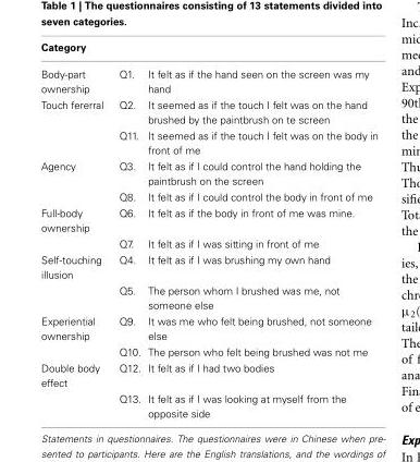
<table><thead><tr><td colspan="3">Category</td></tr><tr><td>Body-part ownership</td><td>Q1.</td><td>It felt as if the hand seen on the screen was my hand</td></tr></thead><tbody><tr><td rowspan="2">Touch fererral</td><td>Q2.</td><td>It seemed as if the touch I felt was on the hand brushed by the paintbrush on te screen</td></tr><tr><td>Q11.</td><td>It seemed as if the touch I felt was on the body in front of me</td></tr><tr><td rowspan="2">Agency</td><td>Q3.</td><td>It felt as if I could control the hand holding the paintbrush on the screen</td></tr><tr><td>Q8.</td><td>It felt as if I could control the body in front of me</td></tr><tr><td rowspan="2">Full-body ownership</td><td>Q6.</td><td>It felt as if the body in front of me was mine.</td></tr><tr><td>Q7.</td><td>It felt as if I was sitting in front of me</td></tr><tr><td rowspan="2">Self-touching illusion</td><td>Q4.</td><td>It felt as if I was brushing my own hand</td></tr><tr><td>Q5.</td><td>The person whom I brushed was me, not someone else</td></tr><tr><td rowspan="2">Experiential ownership</td><td>Q9.</td><td>It was me who felt being brushed, not someone else</td></tr><tr><td>Q10.</td><td>The person who felt being brushed was not me</td></tr><tr><td rowspan="2">Double body effect</td><td>Q12.</td><td>It felt as if I had two bodies</td></tr><tr><td>Q13.</td><td>It felt as if I was looking at myself from the opposite side</td></tr></tbody></table>